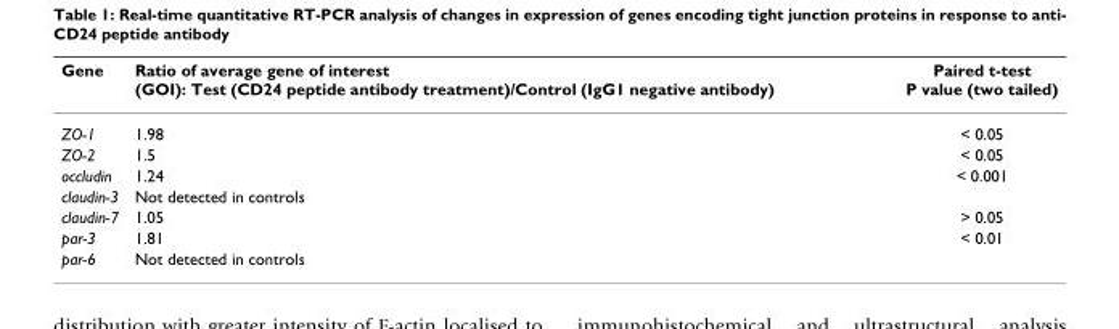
<table><thead><tr><td>Gene</td><td>Ratio of average gene of interest (GOI): Test (CD24 peptide antibody treatment)/Control (IgG1 negative antibody)</td><td>Paired t-test P value (two tailed)</td></tr></thead><tbody><tr><td>ZO-1</td><td>1.98</td><td>&lt; 0.05</td></tr><tr><td>ZO-2</td><td>1.5</td><td>&lt; 0.05</td></tr><tr><td>occludin</td><td>1.24</td><td>&lt; 0.001</td></tr><tr><td>claudin-3</td><td>Not detected in controls</td><td></td></tr><tr><td>claudin-7</td><td>1.05</td><td>&gt; 0.05</td></tr><tr><td>par-3</td><td>1.81</td><td>&lt; 0.01</td></tr><tr><td>par-6</td><td>Not detected in controls</td><td></td></tr></tbody></table>